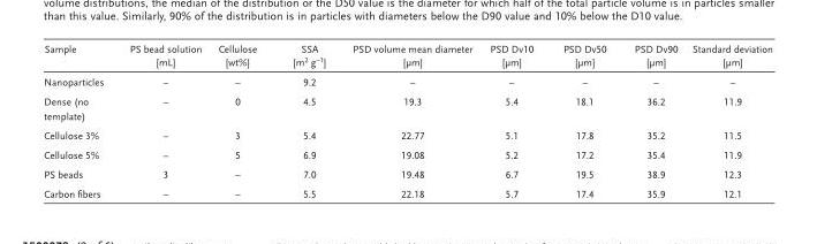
<table><thead><tr><td>Sample</td><td>PS bead solution [mL]</td><td>Cellulose [wt%]</td><td>SSA [m <sup>2</sup> g <sup>−1</sup> ]</td><td>PSD volume mean diameter [µm]</td><td>PSD Dv10 [µm]</td><td>PSD Dv50 [µm]</td><td>PSD Dv90 [µm]</td><td>Standard deviation [µm]</td></tr></thead><tbody><tr><td>Nanoparticles</td><td>–</td><td>–</td><td>9.2</td><td>–</td><td>–</td><td>–</td><td>–</td><td>–</td></tr><tr><td>Dense (no template)</td><td>–</td><td>0</td><td>4.5</td><td>19.3</td><td>5.4</td><td>18.1</td><td>36.2</td><td>11.9</td></tr><tr><td>Cellulose 3%</td><td>–</td><td>3</td><td>5.4</td><td>22.77</td><td>5.1</td><td>17.8</td><td>35.2</td><td>11.5</td></tr><tr><td>Cellulose 5%</td><td>–</td><td>5</td><td>6.9</td><td>19.08</td><td>5.2</td><td>17.2</td><td>35.4</td><td>11.9</td></tr><tr><td>PS beads</td><td>3</td><td>–</td><td>7.0</td><td>19.48</td><td>6.7</td><td>19.5</td><td>38.9</td><td>12.3</td></tr><tr><td>Carbon fi bers</td><td>–</td><td>–</td><td>5.5</td><td>22.18</td><td>5.7</td><td>17.4</td><td>35.9</td><td>12.1</td></tr></tbody></table>